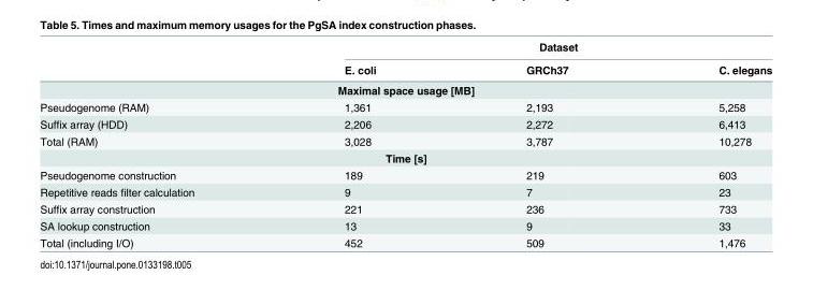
<table><thead><tr><td rowspan="2"></td><td colspan="3">Dataset</td></tr><tr><td>E. coli</td><td>GRCh37</td><td>C. elegans</td></tr></thead><tbody><tr><td colspan="4">Maximal space usage [MB]</td></tr><tr><td>Pseudogenome (RAM)</td><td>1,361</td><td>2,193</td><td>5,258</td></tr><tr><td>Suffix array (HDD)</td><td>2,206</td><td>2,272</td><td>6,413</td></tr><tr><td>Total (RAM)</td><td>3,028</td><td>3,787</td><td>10,278</td></tr><tr><td colspan="4">Time [s]</td></tr><tr><td>Pseudogenome construction</td><td>189</td><td>219</td><td>603</td></tr><tr><td>Repetitive reads filter calculation</td><td>9</td><td>7</td><td>23</td></tr><tr><td>Suffix array construction</td><td>221</td><td>236</td><td>733</td></tr><tr><td>SA lookup construction</td><td>13</td><td>9</td><td>33</td></tr><tr><td>Total (including I/O)</td><td>452</td><td>509</td><td>1,476</td></tr></tbody></table>